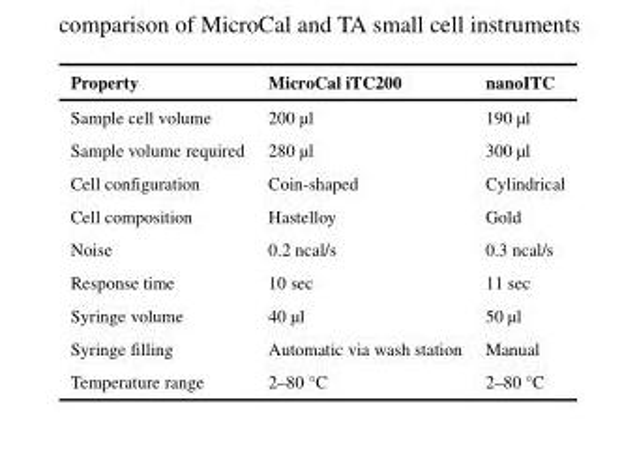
<table><thead><tr><td>Property</td><td>MicroCal iTC200</td><td>nanoITC</td></tr></thead><tbody><tr><td>Sample cell volume</td><td>200 μl</td><td>190 μl</td></tr><tr><td>Sample volume required</td><td>280 μl</td><td>300 μl</td></tr><tr><td>Cell configuration</td><td>Coin-shaped</td><td>Cylindrical</td></tr><tr><td>Cell composition</td><td>Hastelloy</td><td>Gold</td></tr><tr><td>Noise</td><td>0.2 ncal/s</td><td>0.3 ncal/s</td></tr><tr><td>Response time</td><td>10 sec</td><td>11 sec</td></tr><tr><td>Syringe volume</td><td>40 μl</td><td>50 μl</td></tr><tr><td>Syringe filling</td><td>Automatic via wash station</td><td>Manual</td></tr><tr><td>Temperature range</td><td>2–80 °C</td><td>2–80 °C</td></tr></tbody></table>